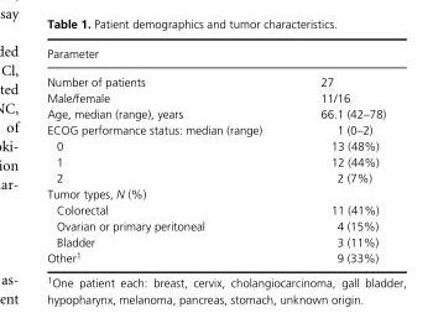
<table><thead><tr><td>Parameter</td><td></td></tr></thead><tbody><tr><td>Number of patients</td><td>27</td></tr><tr><td>Male/female</td><td>11/16</td></tr><tr><td>Age, median (range), years</td><td>66.1 (42–78)</td></tr><tr><td>ECOG performance status: median (range)</td><td>1 (0–2)</td></tr><tr><td>0</td><td>13 (48%)</td></tr><tr><td>1</td><td>12 (44%)</td></tr><tr><td>2</td><td>2 (7%)</td></tr><tr><td colspan="2">Tumor types, N (%)</td></tr><tr><td>Colorectal</td><td>11 (41%)</td></tr><tr><td>Ovarian or primary peritoneal</td><td>4 (15%)</td></tr><tr><td>Bladder</td><td>3 (11%)</td></tr><tr><td>Other<sup>1</sup></td><td>9 (33%)</td></tr></tbody></table>